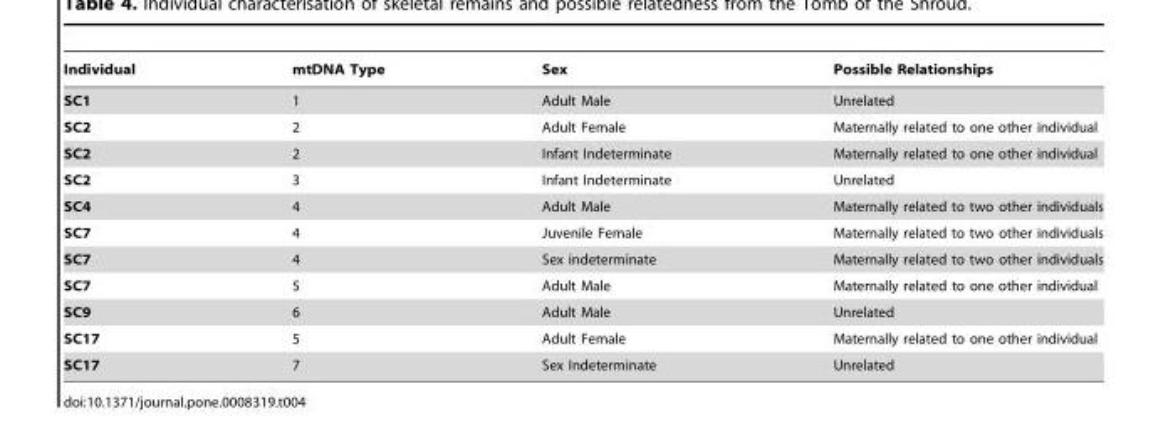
<table><thead><tr><td>Individual</td><td>mtDNA Type</td><td>Sex</td><td>Possible Relationships</td></tr></thead><tbody><tr><td>SC1</td><td>1</td><td>Adult Male</td><td>Unrelated</td></tr><tr><td>SC2</td><td>2</td><td>Adult Female</td><td>Maternally related to one other individual</td></tr><tr><td>SC2</td><td>2</td><td>Infant Indeterminate</td><td>Maternally related to one other individual</td></tr><tr><td>SC2</td><td>3</td><td>Infant Indeterminate</td><td>Unrelated</td></tr><tr><td>SC4</td><td>4</td><td>Adult Male</td><td>Maternally related to two other individuals</td></tr><tr><td>SC7</td><td>4</td><td>Juvenile Female</td><td>Maternally related to two other individuals</td></tr><tr><td>SC7</td><td>4</td><td>Sex indeterminate</td><td>Maternally related to two other individuals</td></tr><tr><td>SC7</td><td>5</td><td>Adult Male</td><td>Maternally related to one other individual</td></tr><tr><td>SC9</td><td>6</td><td>Adult Male</td><td>Unrelated</td></tr><tr><td>SC17</td><td>5</td><td>Adult Female</td><td>Maternally related to one other individual</td></tr><tr><td>SC17</td><td>7</td><td>Sex Indeterminate</td><td>Unrelated</td></tr></tbody></table>